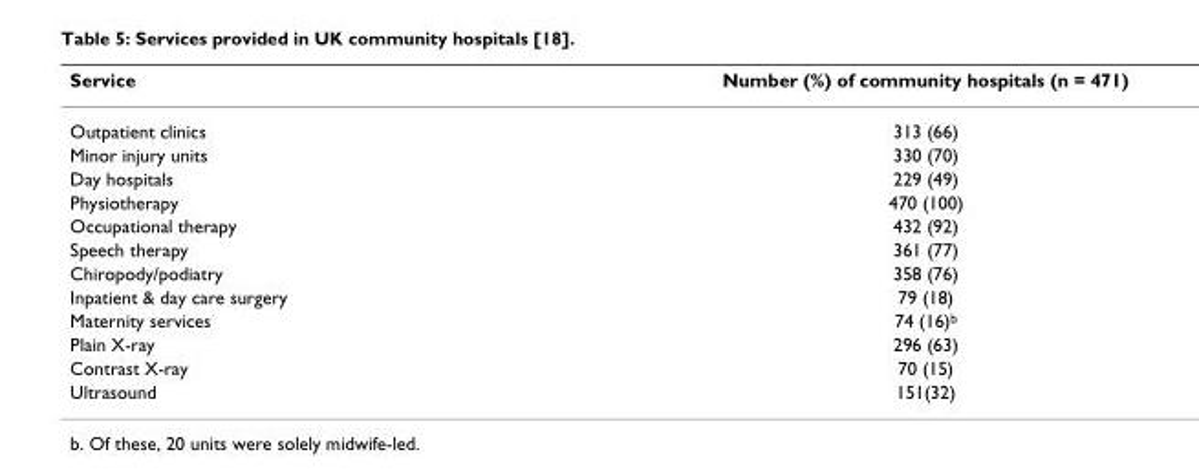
<table><thead><tr><td>Service</td><td>Number (%) of community hospitals (n = 471)</td></tr></thead><tbody><tr><td>Outpatient clinics</td><td>313 (66)</td></tr><tr><td>Minor injury units</td><td>330 (70)</td></tr><tr><td>Day hospitals</td><td>229 (49)</td></tr><tr><td>Physiotherapy</td><td>470 (100)</td></tr><tr><td>Occupational therapy</td><td>432 (92)</td></tr><tr><td>Speech therapy</td><td>361 (77)</td></tr><tr><td>Chiropody/podiatry</td><td>358 (76)</td></tr><tr><td>Inpatient &amp; day care surgery</td><td>79 (18)</td></tr><tr><td>Maternity services</td><td>74 (16)b</td></tr><tr><td>Plain X-ray</td><td>296 (63)</td></tr><tr><td>Contrast X-ray</td><td>70 (15)</td></tr><tr><td>Ultrasound</td><td>151(32)</td></tr></tbody></table>